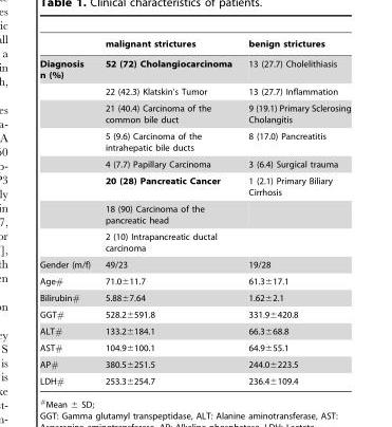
<table><thead><tr><td></td><td>malignant strictures</td><td>benign strictures</td></tr></thead><tbody><tr><td rowspan="8">Diagnosis n (%)</td><td>52 (72) Cholangiocarcinoma</td><td>13 (27.7) Cholelithiasis</td></tr><tr><td>22 (42.3) Klatskin’s Tumor</td><td>13 (27.7) Inflammation</td></tr><tr><td>21 (40.4) Carcinoma of the common bile duct</td><td>9 (19.1) Primary Sclerosing Cholangitis</td></tr><tr><td>5 (9.6) Carcinoma of the intrahepatic bile ducts</td><td>8 (17.0) Pancreatitis</td></tr><tr><td>4 (7.7) Papillary Carcinoma</td><td>3 (6.4) Surgical trauma</td></tr><tr><td>20 (28) Pancreatic Cancer</td><td>1 (2.1) Primary Biliary Cirrhosis</td></tr><tr><td>18 (90) Carcinoma of the pancreatic head</td><td></td></tr><tr><td>2 (10) Intrapancreatic ductal carcinoma</td><td></td></tr><tr><td>Gender (m/f)</td><td>49/23</td><td>19/28</td></tr><tr><td>Age#</td><td>71.0±11.7</td><td>61.3±17.1</td></tr><tr><td>Bilirubin#</td><td>5.88±7.64</td><td>1.62±2.1</td></tr><tr><td>GGT#</td><td>528.2±591.8</td><td>331.9±420.8</td></tr><tr><td>ALT#</td><td>133.2±184.1</td><td>66.3±68.8</td></tr><tr><td>AST#</td><td>104.9±100.1</td><td>64.9±55.1</td></tr><tr><td>AP#</td><td>380.5±251.5</td><td>244.0±223.5</td></tr><tr><td>LDH#</td><td>253.3±254.7</td><td>236.4±109.4</td></tr></tbody></table>